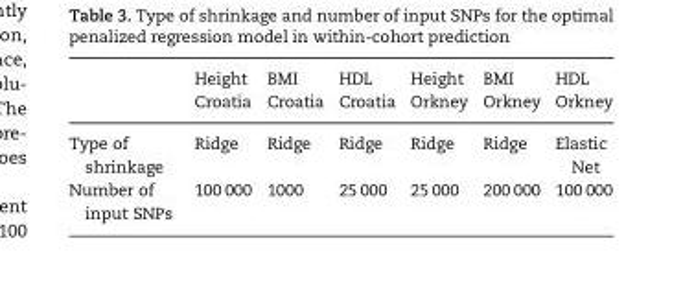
<table><thead><tr><td></td><td>Height Croatia</td><td>BMI Croatia</td><td>HDL Croatia</td><td>Height Orkney</td><td>BMI Orkney</td><td>HDL Orkney</td></tr></thead><tbody><tr><td>Type of shrinkage</td><td>Ridge</td><td>Ridge</td><td>Ridge</td><td>Ridge</td><td>Ridge</td><td>Elastic Net</td></tr><tr><td>Number of input SNPs</td><td>100 000</td><td>1000</td><td>25 000</td><td>25 000</td><td>200 000</td><td>100 000</td></tr></tbody></table>